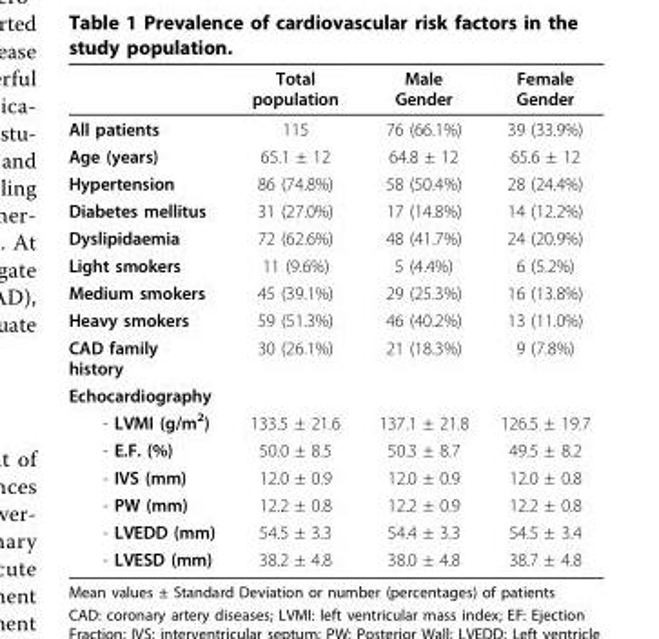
<table><thead><tr><td></td><td>Total population</td><td>Male Gender</td><td>Female Gender</td></tr></thead><tbody><tr><td>All patients</td><td>115</td><td>76 (66.1%)</td><td>39 (33.9%)</td></tr><tr><td>Age (years)</td><td>65.1 ± 12</td><td>64.8 ± 12</td><td>65.6 ± 12</td></tr><tr><td>Hypertension</td><td>86 (74.8%)</td><td>58 (50.4%)</td><td>28 (24.4%)</td></tr><tr><td>Diabetes mellitus</td><td>31 (27.0%)</td><td>17 (14.8%)</td><td>14 (12.2%)</td></tr><tr><td>Dyslipidaemia</td><td>72 (62.6%)</td><td>48 (41.7%)</td><td>24 (20.9%)</td></tr><tr><td>Light smokers</td><td>11 (9.6%)</td><td>5 (4.4%)</td><td>6 (5.2%)</td></tr><tr><td>Medium smokers</td><td>45 (39.1%)</td><td>29 (25.3%)</td><td>16 (13.8%)</td></tr><tr><td>Heavy smokers</td><td>59 (51.3%)</td><td>46 (40.2%)</td><td>13 (11.0%)</td></tr><tr><td>CAD family history</td><td>30 (26.1%)</td><td>21 (18.3%)</td><td>9 (7.8%)</td></tr><tr><td colspan="4">Echocardiography</td></tr><tr><td>- LVMI (g/m<sup>2</sup>)</td><td>133.5 ± 21.6</td><td>137.1 ± 21.8</td><td>126.5 ± 19.7</td></tr><tr><td>- E.F. (%)</td><td>50.0 ± 8.5</td><td>50.3 ± 8.7</td><td>49.5 ± 8.2</td></tr><tr><td>- IVS (mm)</td><td>12.0 ± 0.9</td><td>12.0 ± 0.9</td><td>12.0 ± 0.8</td></tr><tr><td>- PW (mm)</td><td>12.2 ± 0.8</td><td>12.2 ± 0.9</td><td>12.2 ± 0.8</td></tr><tr><td>- LVEDD (mm)</td><td>54.5 ± 3.3</td><td>54.4 ± 3.3</td><td>54.5 ± 3.4</td></tr><tr><td>- LVESD (mm)</td><td>38.2 ± 4.8</td><td>38.0 ± 4.8</td><td>38.7 ± 4.8</td></tr></tbody></table>